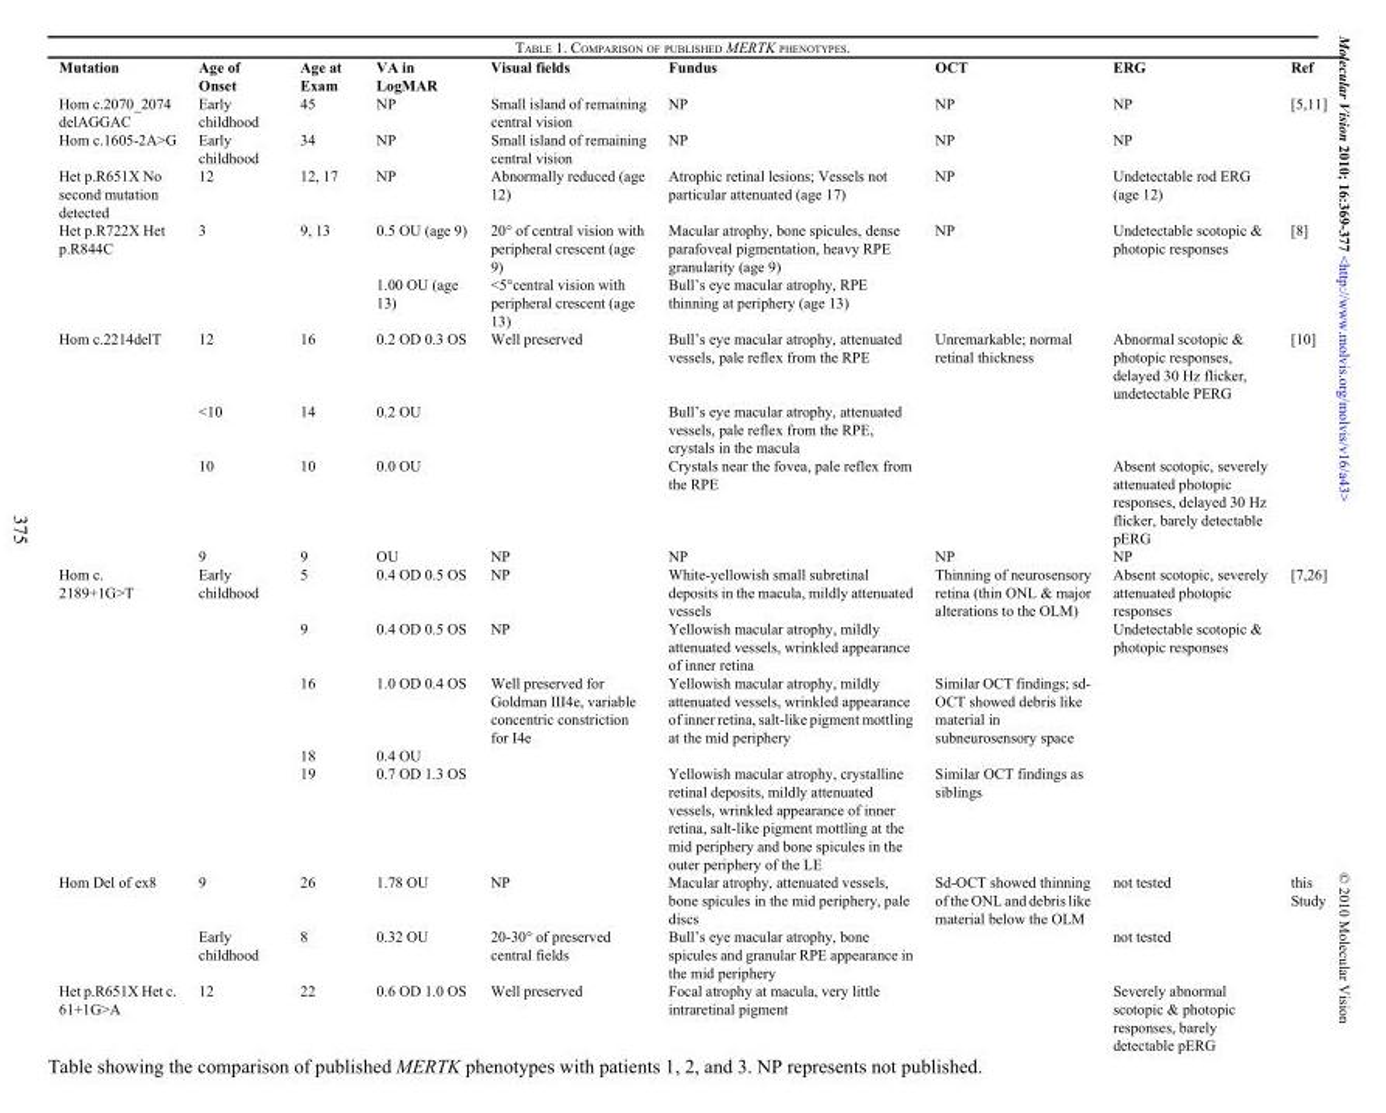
<table><thead><tr><td>Mutation</td><td>Age of Onset</td><td>Age at Exam</td><td>VA in LogMAR</td><td>Visual fields</td><td>Fundus</td><td>OCT</td><td>ERG</td><td>Ref</td></tr></thead><tbody><tr><td>Hom c.2070_2074 delAGGAC</td><td>Early childhood</td><td>45</td><td>NP</td><td>Small island of remaining central vision</td><td>NP</td><td>NP</td><td>NP</td><td>[5,11]</td></tr><tr><td>Hom c.1605-2A&gt;G</td><td>Early childhood</td><td>34</td><td>NP</td><td>Small island of remaining central vision</td><td>NP</td><td>NP</td><td>NP</td><td></td></tr><tr><td>Het p.R651X No second mutation detected</td><td>12</td><td>12, 17</td><td>NP</td><td>Abnormally reduced (age 12)</td><td>Atrophic retinal lesions; Vessels not particular attenuated (age 17)</td><td>NP</td><td>Undetectable rod ERG (age 12)</td><td></td></tr><tr><td rowspan="2">Het p.R722X Het p.R844C</td><td>3</td><td>9, 13</td><td>0.5 OU (age 9)</td><td>20° of central vision with peripheral crescent (age 9)</td><td>Macular atrophy, bone spicules, dense parafoveal pigmentation, heavy RPE granularity (age 9)</td><td>NP</td><td>Undetectable scotopic &amp; photopic responses</td><td>[8]</td></tr><tr><td></td><td></td><td>1.00 OU (age 13)</td><td>&lt;5°central vision with peripheral crescent (age 13)</td><td>Bull’s eye macular atrophy, RPE thinning at periphery (age 13)</td><td></td><td></td><td></td></tr><tr><td rowspan="4">Hom c.2214delT</td><td>12</td><td>16</td><td>0.2 OD 0.3 OS</td><td>Well preserved</td><td>Bull’s eye macular atrophy, attenuated vessels, pale reflex from the RPE</td><td>Unremarkable; normal retinal thickness</td><td>Abnormal scotopic &amp; photopic responses, delayed 30 Hz flicker, undetectable PERG</td><td>[10]</td></tr><tr><td>&lt;10</td><td>14</td><td>0.2 OU</td><td></td><td>Bull’s eye macular atrophy, attenuated vessels, pale reflex from the RPE, crystals in the macula</td><td></td><td></td><td></td></tr><tr><td>10</td><td>10</td><td>0.0 OU</td><td></td><td>Crystals near the fovea, pale reflex from the RPE</td><td></td><td>Absent scotopic, severely attenuated photopic responses, delayed 30 Hz flicker, barely detectable pERG</td><td></td></tr><tr><td>9</td><td>9</td><td>OU</td><td>NP</td><td>NP</td><td>NP</td><td>NP</td><td></td></tr><tr><td rowspan="5">Hom c. 2189+1G&gt;T</td><td>Early childhood</td><td>5</td><td>0.4 OD 0.5 OS</td><td>NP</td><td>White-yellowish small subretinal deposits in the macula, mildly attenuated vessels</td><td>Thinning of neurosensory retina (thin ONL &amp; major alterations to the OLM)</td><td>Absent scotopic, severely attenuated photopic responses</td><td>[7,26]</td></tr><tr><td></td><td>9</td><td>0.4 OD 0.5 OS</td><td>NP</td><td>Yellowish macular atrophy, mildly attenuated vessels, wrinkled appearance of inner retina</td><td></td><td>Undetectable scotopic &amp; photopic responses</td><td></td></tr><tr><td></td><td>16</td><td>1.0 OD 0.4 OS</td><td>Well preserved for Goldman III4e, variable concentric constriction for I4e</td><td>Yellowish macular atrophy, mildly attenuated vessels, wrinkled appearance of inner retina, salt-like pigment mottling at the mid periphery</td><td>Similar OCT findings; sd- OCT showed debris like material in subneurosensory space</td><td></td><td></td></tr><tr><td></td><td>18</td><td>0.4 OU</td><td></td><td></td><td></td><td></td><td></td></tr><tr><td></td><td>19</td><td>0.7 OD 1.3 OS</td><td></td><td>Yellowish macular atrophy, crystalline retinal deposits, mildly attenuated vessels, wrinkled appearance of inner retina, salt-like pigment mottling at the mid periphery and bone spicules in the outer periphery of the LE</td><td>Similar OCT findings as siblings</td><td></td><td></td></tr><tr><td rowspan="2">Hom Del of ex8</td><td>9</td><td>26</td><td>1.78 OU</td><td>NP</td><td>Macular atrophy, attenuated vessels, bone spicules in the mid periphery, pale discs</td><td>Sd-OCT showed thinning of the ONL and debris like material below the OLM</td><td>not tested</td><td>this Study</td></tr><tr><td>Early childhood</td><td>8</td><td>0.32 OU</td><td>20-30° of preserved central fields</td><td>Bull’s eye macular atrophy, bone spicules and granular RPE appearance in the mid periphery</td><td></td><td>not tested</td><td></td></tr><tr><td>Het p.R651X Het c. 61+1G&gt;A</td><td>12</td><td>22</td><td>0.6 OD 1.0 OS</td><td>Well preserved</td><td>Focal atrophy at macula, very little intraretinal pigment</td><td></td><td>Severely abnormal scotopic &amp; photopic responses, barely detectable pERG</td><td></td></tr></tbody></table>